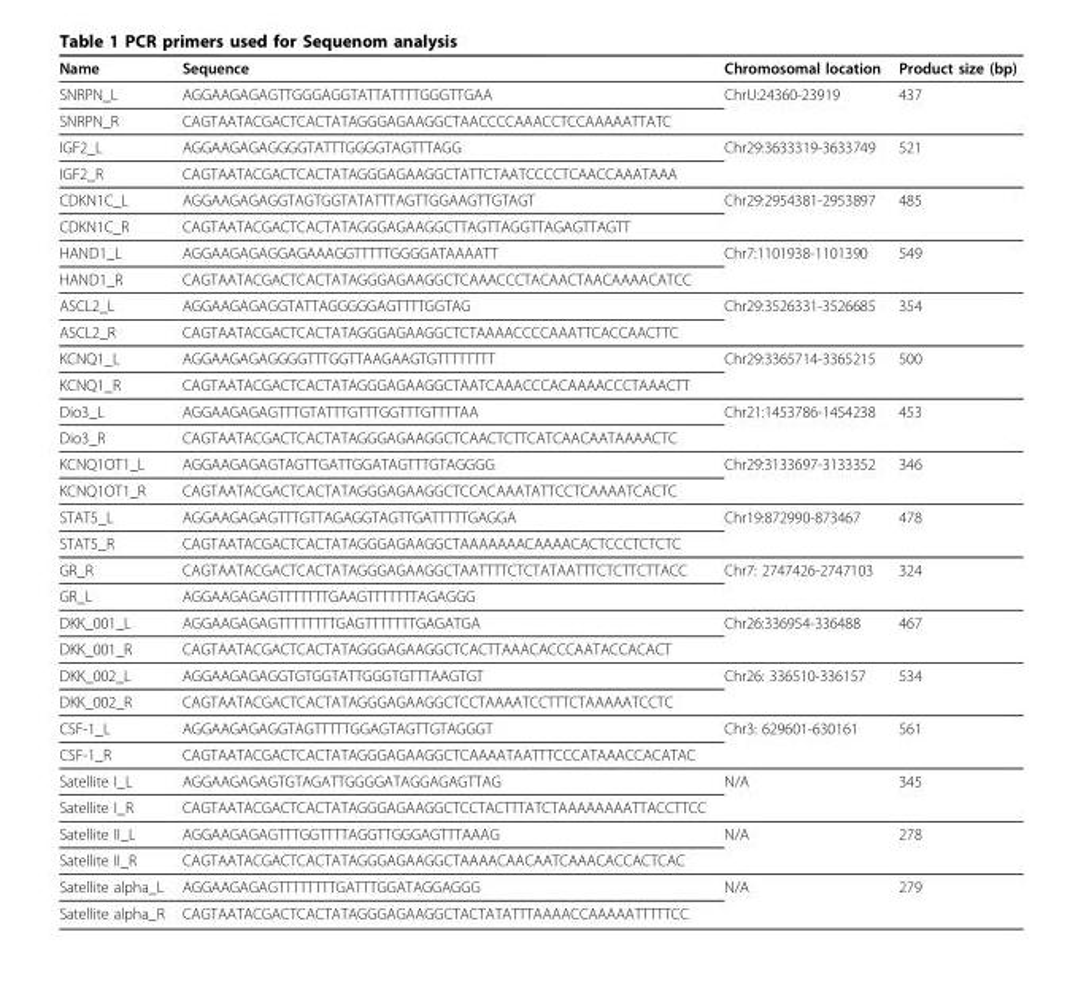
<table><thead><tr><td>Name</td><td>Sequence</td><td>Chromosomal location</td><td>Product size (bp)</td></tr></thead><tbody><tr><td>SNRPN_L</td><td>AGGAAGAGAGTTGGGAGGTATTATTTTGGGTTGAA</td><td>ChrU:24360-23919</td><td>437</td></tr><tr><td>SNRPN_R</td><td>CAGTAATACGACTCACTATAGGGAGAAGGCTAACCCCAAACCTCCAAAAATTATC</td><td></td><td></td></tr><tr><td>IGF2_L</td><td>AGGAAGAGAGGGGTATTTGGGGTAGTTTAGG</td><td>Chr29:3633319-3633749</td><td>521</td></tr><tr><td>IGF2_R</td><td>CAGTAATACGACTCACTATAGGGAGAAGGCTATTCTAATCCCCTCAACCAAATAAA</td><td></td><td></td></tr><tr><td>CDKN1C_L</td><td>AGGAAGAGAGGTAGTGGTATATTTAGTTGGAAGTTGTAGT</td><td>Chr29:2954381-2953897</td><td>485</td></tr><tr><td>CDKN1C_R</td><td>CAGTAATACGACTCACTATAGGGAGAAGGCTTAGTTAGGTTAGAGTTAGTT</td><td></td><td></td></tr><tr><td>HAND1_L</td><td>AGGAAGAGAGGAGAAAGGTTTTTGGGGATAAAATT</td><td>Chr7:1101938-1101390</td><td>549</td></tr><tr><td>HAND1_R</td><td>CAGTAATACGACTCACTATAGGGAGAAGGCTCAAACCCTACAACTAACAAAACATCC</td><td></td><td></td></tr><tr><td>ASCL2_L</td><td>AGGAAGAGAGGTATTAGGGGGAGTTTTGGTAG</td><td>Chr29:3526331-3526685</td><td>354</td></tr><tr><td>ASCL2_R</td><td>CAGTAATACGACTCACTATAGGGAGAAGGCTCTAAAACCCCAAATTCACCAACTTC</td><td></td><td></td></tr><tr><td>KCNQ1_L</td><td>AGGAAGAGAGGGGTTTGGTTAAGAAGTGTTTTTTTT</td><td>Chr29:3365714-3365215</td><td>500</td></tr><tr><td>KCNQ1_R</td><td>CAGTAATACGACTCACTATAGGGAGAAGGCTAATCAAACCCACAAAACCCTAAACTT</td><td></td><td></td></tr><tr><td>Dio3_L</td><td>AGGAAGAGAGTTTGTATTTGTTTGGTTTGTTTTAA</td><td>Chr21:1453786-1454238</td><td>453</td></tr><tr><td>Dio3_R</td><td>CAGTAATACGACTCACTATAGGGAGAAGGCTCAACTCTTCATCAACAATAAAACTC</td><td></td><td></td></tr><tr><td>KCNQ1OT1_L</td><td>AGGAAGAGAGTAGTTGATTGGATAGTTTGTAGGGG</td><td>Chr29:3133697-3133352</td><td>346</td></tr><tr><td>KCNQ1OT1_R</td><td>CAGTAATACGACTCACTATAGGGAGAAGGCTCCACAAATATTCCTCAAAATCACTC</td><td></td><td></td></tr><tr><td>STAT5_L</td><td>AGGAAGAGAGTTTGTTAGAGGTAGTTGATTTTTGAGGA</td><td>Chr19:872990-873467</td><td>478</td></tr><tr><td>STAT5_R</td><td>CAGTAATACGACTCACTATAGGGAGAAGGCTAAAAAAACAAAACACTCCCTCTCTC</td><td></td><td></td></tr><tr><td>GR_R</td><td>CAGTAATACGACTCACTATAGGGAGAAGGCTAATTTTCTCTATAATTTCTCTTCTTACC</td><td>Chr7: 2747426-2747103</td><td>324</td></tr><tr><td>GR_L</td><td>AGGAAGAGAGTTTTTTTGAAGTTTTTTTAGAGGG</td><td></td><td></td></tr><tr><td>DKK_001_L</td><td>AGGAAGAGAGTTTTTTTTGAGTTTTTTTGAGATGA</td><td>Chr26:336954-336488</td><td>467</td></tr><tr><td>DKK_001_R</td><td>CAGTAATACGACTCACTATAGGGAGAAGGCTCACTTAAACACCCAATACCACACT</td><td></td><td></td></tr><tr><td>DKK_002_L</td><td>AGGAAGAGAGGTGTGGTATTGGGTGTTTAAGTGT</td><td>Chr26: 336510-336157</td><td>534</td></tr><tr><td>DKK_002_R</td><td>CAGTAATACGACTCACTATAGGGAGAAGGCTCCTAAAATCCTTTCTAAAAATCCTC</td><td></td><td></td></tr><tr><td>CSF-1_L</td><td>AGGAAGAGAGGTAGTTTTTGGAGTAGTTGTAGGGT</td><td>Chr3: 629601-630161</td><td>561</td></tr><tr><td>CSF-1_R</td><td>CAGTAATACGACTCACTATAGGGAGAAGGCTCAAAATAATTTCCCATAAACCACATAC</td><td></td><td></td></tr><tr><td>Satellite I_L</td><td>AGGAAGAGAGTGTAGATTGGGGATAGGAGAGTTAG</td><td>N/A</td><td>345</td></tr><tr><td>Satellite I_R</td><td>CAGTAATACGACTCACTATAGGGAGAAGGCTCCTACTTTATCTAAAAAAAATTACCTTCC</td><td></td><td></td></tr><tr><td>Satellite II_L</td><td>AGGAAGAGAGTTTGGTTTTAGGTTGGGAGTTTAAAG</td><td>N/A</td><td>278</td></tr><tr><td>Satellite II_R</td><td>CAGTAATACGACTCACTATAGGGAGAAGGCTAAAACAACAATCAAACACCACTCAC</td><td></td><td></td></tr><tr><td>Satellite alpha_L</td><td>AGGAAGAGAGTTTTTTTTGATTTGGATAGGAGGG</td><td>N/A</td><td>279</td></tr><tr><td>Satellite alpha_R</td><td>CAGTAATACGACTCACTATAGGGAGAAGGCTACTATATTTAAAACCAAAAATTTTTCC</td><td></td><td></td></tr></tbody></table>